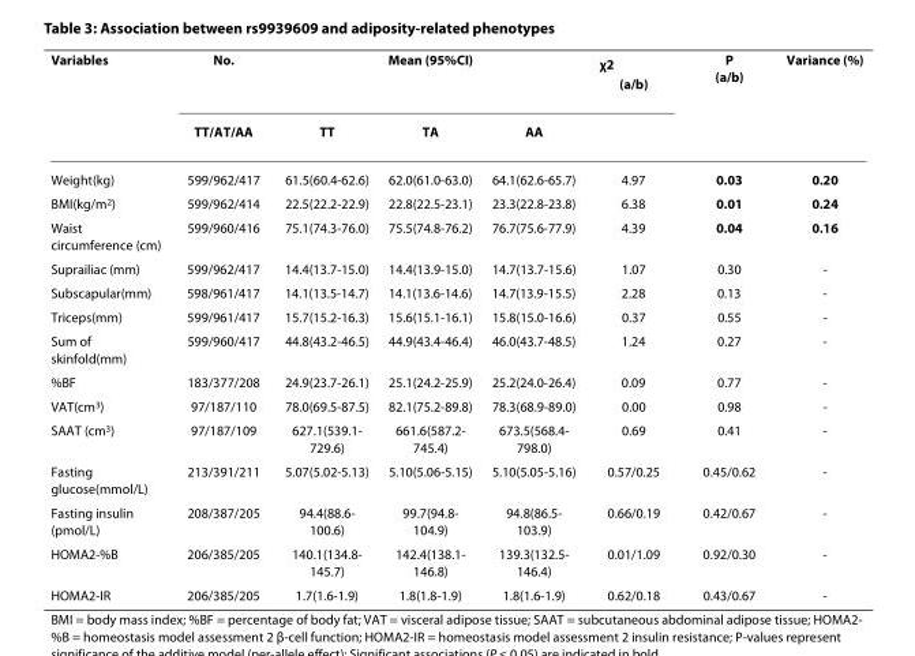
<table><thead><tr><td rowspan="2">Variables</td><td rowspan="2">No. TT/AT/AA</td><td colspan="3">Mean (95%CI)</td><td rowspan="2">χ<sup>2</sup> (a/b)</td><td rowspan="2">P (a/b)</td><td rowspan="2">Variance (%)</td></tr><tr><td>TT</td><td>TA</td><td>AA</td></tr></thead><tbody><tr><td>Weight(kg)</td><td>599/962/417</td><td>61.5(60.4-62.6)</td><td>62.0(61.0-63.0)</td><td>64.1(62.6-65.7)</td><td>4.97</td><td>0.03</td><td>0.20</td></tr><tr><td>BMI(kg/m<sup>2</sup>)</td><td>599/962/414</td><td>22.5(22.2-22.9)</td><td>22.8(22.5-23.1)</td><td>23.3(22.8-23.8)</td><td>6.38</td><td>0.01</td><td>0.24</td></tr><tr><td>Waist circumference (cm)</td><td>599/960/416</td><td>75.1(74.3-76.0)</td><td>75.5(74.8-76.2)</td><td>76.7(75.6-77.9)</td><td>4.39</td><td>0.04</td><td>0.16</td></tr><tr><td>Suprailiac (mm)</td><td>599/962/417</td><td>14.4(13.7-15.0)</td><td>14.4(13.9-15.0)</td><td>14.7(13.7-15.6)</td><td>1.07</td><td>0.30</td><td>-</td></tr><tr><td>Subscapular(mm)</td><td>598/961/417</td><td>14.1(13.5-14.7)</td><td>14.1(13.6-14.6)</td><td>14.7(13.9-15.5)</td><td>2.28</td><td>0.13</td><td>-</td></tr><tr><td>Triceps(mm)</td><td>599/961/417</td><td>15.7(15.2-16.3)</td><td>15.6(15.1-16.1)</td><td>15.8(15.0-16.6)</td><td>0.37</td><td>0.55</td><td>-</td></tr><tr><td>Sum of skinfold(mm)</td><td>599/960/417</td><td>44.8(43.2-46.5)</td><td>44.9(43.4-46.4)</td><td>46.0(43.7-48.5)</td><td>1.24</td><td>0.27</td><td>-</td></tr><tr><td>%BF</td><td>183/377/208</td><td>24.9(23.7-26.1)</td><td>25.1(24.2-25.9)</td><td>25.2(24.0-26.4)</td><td>0.09</td><td>0.77</td><td>-</td></tr><tr><td>VAT(cm<sup>3</sup>)</td><td>97/187/110</td><td>78.0(69.5-87.5)</td><td>82.1(75.2-89.8)</td><td>78.3(68.9-89.0)</td><td>0.00</td><td>0.98</td><td>-</td></tr><tr><td>SAAT (cm<sup>3</sup>)</td><td>97/187/109</td><td>627.1(539.1- 729.6)</td><td>661.6(587.2- 745.4)</td><td>673.5(568.4- 798.0)</td><td>0.69</td><td>0.41</td><td>-</td></tr><tr><td>Fasting glucose(mmol/L)</td><td>213/391/211</td><td>5.07(5.02-5.13)</td><td>5.10(5.06-5.15)</td><td>5.10(5.05-5.16)</td><td>0.57/0.25</td><td>0.45/0.62</td><td>-</td></tr><tr><td>Fasting insulin (pmol/L)</td><td>208/387/205</td><td>94.4(88.6- 100.6)</td><td>99.7(94.8- 104.9)</td><td>94.8(86.5- 103.9)</td><td>0.66/0.19</td><td>0.42/0.67</td><td>-</td></tr><tr><td>HOMA2-%B</td><td>206/385/205</td><td>140.1(134.8- 145.7)</td><td>142.4(138.1- 146.8)</td><td>139.3(132.5- 146.4)</td><td>0.01/1.09</td><td>0.92/0.30</td><td>-</td></tr><tr><td>HOMA2-IR</td><td>206/385/205</td><td>1.7(1.6-1.9)</td><td>1.8(1.8-1.9)</td><td>1.8(1.6-1.9)</td><td>0.62/0.18</td><td>0.43/0.67</td><td>-</td></tr></tbody></table>